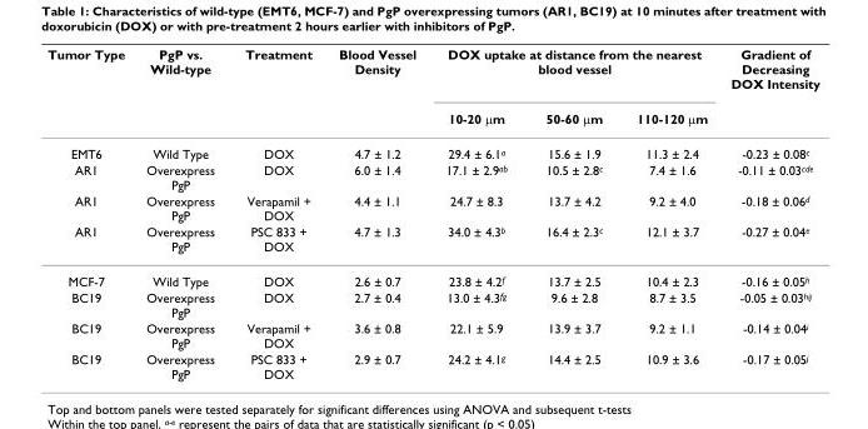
<table><thead><tr><td rowspan="2">Tumor Type</td><td rowspan="2">PgP vs. Wild-type</td><td rowspan="2">Treatment</td><td rowspan="2">Blood Vessel Density</td><td colspan="3">DOX uptake at distance from the nearest blood vessel</td><td rowspan="2">Gradient of Decreasing DOX Intensity</td></tr><tr><td>10-20 μm</td><td>50-60 μm</td><td>110-120 μm</td></tr></thead><tbody><tr><td>EMT6</td><td>Wild Type</td><td>DOX</td><td>4.7 ± 1.2</td><td>29.4 ± 6.1<sup>a</sup></td><td>15.6 ± 1.9</td><td>11.3 ± 2.4</td><td>-0.23 ± 0.08<sup>c</sup></td></tr><tr><td>AR1</td><td>Overexpress PgP</td><td>DOX</td><td>6.0 ± 1.4</td><td>17.1 ± 2.9<sup>ab</sup></td><td>10.5 ± 2.8<sup>c</sup></td><td>7.4 ± 1.6</td><td>-0.11 ± 0.03<sup>cde</sup></td></tr><tr><td>AR1</td><td>Overexpress PgP</td><td>Verapamil + DOX</td><td>4.4 ± 1.1</td><td>24.7 ± 8.3</td><td>13.7 ± 4.2</td><td>9.2 ± 4.0</td><td>-0.18 ± 0.06<sup>d</sup></td></tr><tr><td>AR1</td><td>Overexpress PgP</td><td>PSC 833 + DOX</td><td>4.7 ± 1.3</td><td>34.0 ± 4.3<sup>b</sup></td><td>16.4 ± 2.3<sup>c</sup></td><td>12.1 ± 3.7</td><td>-0.27 ± 0.04<sup>e</sup></td></tr><tr><td>MCF-7</td><td>Wild Type</td><td>DOX</td><td>2.6 ± 0.7</td><td>23.8 ± 4.2<sup>f</sup></td><td>13.7 ± 2.5</td><td>10.4 ± 2.3</td><td>-0.16 ± 0.05<sup>h</sup></td></tr><tr><td>BC19</td><td>Overexpress PgP</td><td>DOX</td><td>2.7 ± 0.4</td><td>13.0 ± 4.3<sup>fg</sup></td><td>9.6 ± 2.8</td><td>8.7 ± 3.5</td><td>-0.05 ± 0.03<sup>hij</sup></td></tr><tr><td>BC19</td><td>Overexpress PgP</td><td>Verapamil + DOX</td><td>3.6 ± 0.8</td><td>22.1 ± 5.9</td><td>13.9 ± 3.7</td><td>9.2 ± 1.1</td><td>-0.14 ± 0.04<sup>i</sup></td></tr><tr><td>BC19</td><td>Overexpress PgP</td><td>PSC 833 + DOX</td><td>2.9 ± 0.7</td><td>24.2 ± 4.1<sup>g</sup></td><td>14.4 ± 2.5</td><td>10.9 ± 3.6</td><td>-0.17 ± 0.05<sup>j</sup></td></tr></tbody></table>